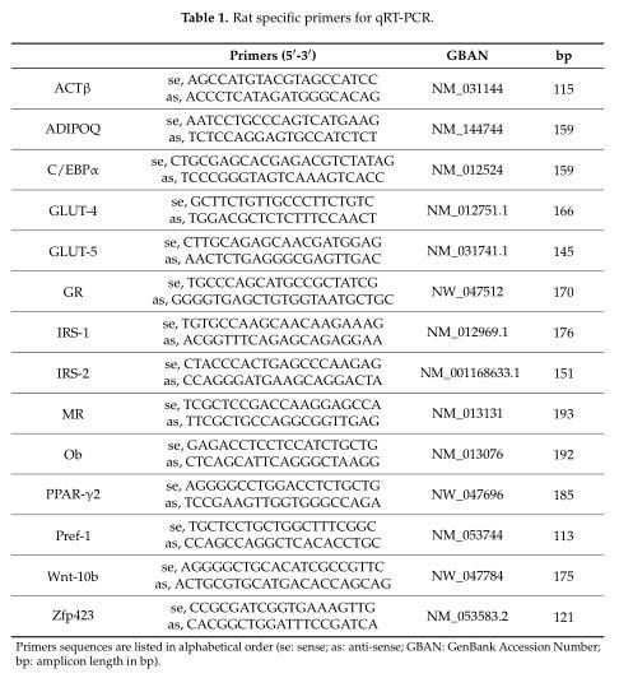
<table><thead><tr><td></td><td>Primers (5′-3′)</td><td>GBAN</td><td>bp</td></tr></thead><tbody><tr><td rowspan="2">ACTβ</td><td>se, AGCCATGTACGTAGCCATCC</td><td rowspan="2">NM_031144</td><td rowspan="2">115</td></tr><tr><td>as, ACCCTCATAGATGGGCACAG</td></tr><tr><td rowspan="2">ADIPOQ</td><td>se, AATCCTGCCCAGTCATGAAG</td><td rowspan="2">NM_144744</td><td rowspan="2">159</td></tr><tr><td>as, TCTCCAGGAGTGCCATCTCT</td></tr><tr><td rowspan="2">C/EBPα</td><td>se, CTGCGAGCACGAGACGTCTATAG</td><td rowspan="2">NM_012524</td><td rowspan="2">159</td></tr><tr><td>as, TCCCGGGTAGTCAAAGTCACC</td></tr><tr><td rowspan="2">GLUT-4</td><td>se, GCTTCTGTTGCCCTTCTGTC</td><td rowspan="2">NM_012751.1</td><td rowspan="2">166</td></tr><tr><td>as, TGGACGCTCTCTTTCCAACT</td></tr><tr><td rowspan="2">GLUT-5</td><td>se, CTTGCAGAGCAACGATGGAG</td><td rowspan="2">NM_031741.1</td><td rowspan="2">145</td></tr><tr><td>as, AACTCTGAGGGCGAGTTGAC</td></tr><tr><td rowspan="2">GR</td><td>se, TGCCCAGCATGCCGCTATCG</td><td rowspan="2">NW_047512</td><td rowspan="2">170</td></tr><tr><td>as, GGGGTGAGCTGTGGTAATGCTGC</td></tr><tr><td rowspan="2">IRS-1</td><td>se, TGTGCCAAGCAACAAGAAAG</td><td rowspan="2">NM_012969.1</td><td rowspan="2">176</td></tr><tr><td>as, ACGGTTTCAGAGCAGAGGAA</td></tr><tr><td rowspan="2">IRS-2</td><td>se, CTACCCACTGAGCCCAAGAG</td><td rowspan="2">NM_001168633.1</td><td rowspan="2">151</td></tr><tr><td>as, CCAGGGATGAAGCAGGACTA</td></tr><tr><td rowspan="2">MR</td><td>se, TCGCTCCGACCAAGGAGCCA</td><td rowspan="2">NM_013131</td><td rowspan="2">193</td></tr><tr><td>as, TTCGCTGCCAGGCGGTTGAG</td></tr><tr><td rowspan="2">Ob</td><td>se, GAGACCTCCTCCATCTGCTG</td><td rowspan="2">NM_013076</td><td rowspan="2">192</td></tr><tr><td>as, CTCAGCATTCAGGGCTAAGG</td></tr><tr><td rowspan="2">PPAR-γ2</td><td>se, AGGGGCCTGGACCTCTGCTG</td><td rowspan="2">NW_047696</td><td rowspan="2">185</td></tr><tr><td>as, TCCGAAGTTGGTGGGCCAGA</td></tr><tr><td rowspan="2">Pref-1</td><td>se, TGCTCCTGCTGGCTTTCGGC</td><td rowspan="2">NM_053744</td><td rowspan="2">113</td></tr><tr><td>as, CCAGCCAGGCTCACACCTGC</td></tr><tr><td rowspan="2">Wnt-10b</td><td>se, AGGGGCTGCACATCGCCGTTC</td><td rowspan="2">NW_047784</td><td rowspan="2">175</td></tr><tr><td>as, ACTGCGTGCATGACACCAGCAG</td></tr><tr><td rowspan="2">Zfp423</td><td>se, CCGCGATCGGTGAAAGTTG</td><td rowspan="2">NM_053583.2</td><td rowspan="2">121</td></tr><tr><td>as, CACGGCTGGATTTCCGATCA</td></tr></tbody></table>